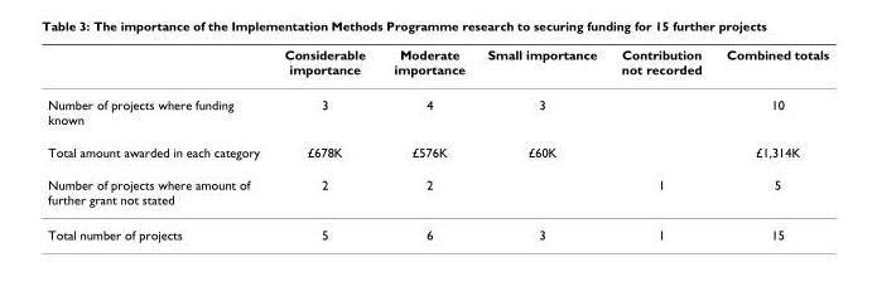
<table><thead><tr><td></td><td>Considerable importance</td><td>Moderate importance</td><td>Small importance</td><td>Contribution not recorded</td><td>Combined totals</td></tr></thead><tbody><tr><td>Number of projects where funding known</td><td>3</td><td>4</td><td>3</td><td></td><td>10</td></tr><tr><td>Total amount awarded in each category</td><td>£678K</td><td>£576K</td><td>£60K</td><td></td><td>£1,314K</td></tr><tr><td>Number of projects where amount of further grant not stated</td><td>2</td><td>2</td><td></td><td>1</td><td>5</td></tr><tr><td>Total number of projects</td><td>5</td><td>6</td><td>3</td><td>1</td><td>15</td></tr></tbody></table>